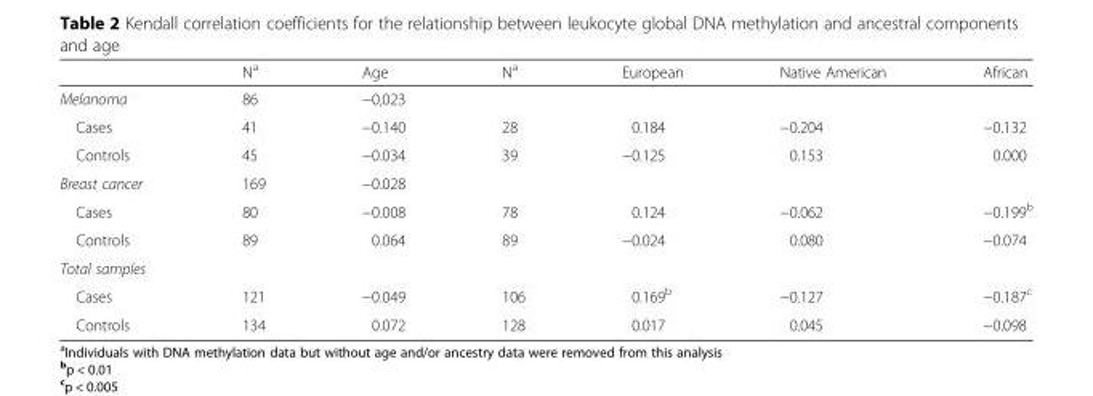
<table><thead><tr><td></td><td>N<sup>a</sup></td><td>Age</td><td>N<sup>a</sup></td><td>European</td><td>Native American</td><td>African</td></tr></thead><tbody><tr><td>Melanoma</td><td>86</td><td>−0,023</td><td></td><td></td><td></td><td></td></tr><tr><td>Cases</td><td>41</td><td>−0.140</td><td>28</td><td>0.184</td><td>−0.204</td><td>−0.132</td></tr><tr><td>Controls</td><td>45</td><td>−0.034</td><td>39</td><td>−0.125</td><td>0.153</td><td>0.000</td></tr><tr><td>Breast cancer</td><td>169</td><td>−0.028</td><td></td><td></td><td></td><td></td></tr><tr><td>Cases</td><td>80</td><td>−0.008</td><td>78</td><td>0.124</td><td>−0.062</td><td>−0.199<sup>b</sup></td></tr><tr><td>Controls</td><td>89</td><td>0.064</td><td>89</td><td>−0.024</td><td>0.080</td><td>−0.074</td></tr><tr><td colspan="7">Total samples</td></tr><tr><td>Cases</td><td>121</td><td>−0.049</td><td>106</td><td>0.169<sup>b</sup></td><td>−0.127</td><td>−0.187<sup>c</sup></td></tr><tr><td>Controls</td><td>134</td><td>0.072</td><td>128</td><td>0.017</td><td>0.045</td><td>−0.098</td></tr></tbody></table>